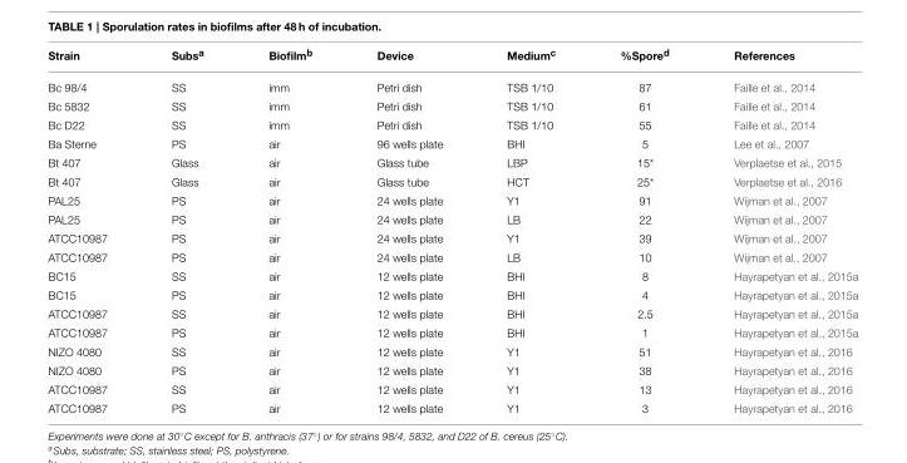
<table><thead><tr><td>Strain</td><td>Subs<sup>a</sup></td><td>Biofilm<sup>b</sup></td><td>Device</td><td>Medium<sup>c</sup></td><td>%Spore<sup>d</sup></td><td>References</td></tr></thead><tbody><tr><td>Bc 98/4</td><td>SS</td><td>imm</td><td>Petri dish</td><td>TSB 1/10</td><td>87</td><td>Faille et al., 2014</td></tr><tr><td>Bc 5832</td><td>SS</td><td>imm</td><td>Petri dish</td><td>TSB 1/10</td><td>61</td><td>Faille et al., 2014</td></tr><tr><td>Bc D22</td><td>SS</td><td>imm</td><td>Petri dish</td><td>TSB 1/10</td><td>55</td><td>Faille et al., 2014</td></tr><tr><td>Ba Sterne</td><td>PS</td><td>air</td><td>96 wells plate</td><td>BHI</td><td>5</td><td>Lee et al., 2007</td></tr><tr><td>Bt 407</td><td>Glass</td><td>air</td><td>Glass tube</td><td>LBP</td><td>15*</td><td>Verplaetse et al., 2015</td></tr><tr><td>Bt 407</td><td>Glass</td><td>air</td><td>Glass tube</td><td>HCT</td><td>25*</td><td>Verplaetse et al., 2016</td></tr><tr><td>PAL25</td><td>PS</td><td>air</td><td>24 wells plate</td><td>Y1</td><td>91</td><td>Wijman et al., 2007</td></tr><tr><td>PAL25</td><td>PS</td><td>air</td><td>24 wells plate</td><td>LB</td><td>22</td><td>Wijman et al., 2007</td></tr><tr><td>ATCC10987</td><td>PS</td><td>air</td><td>24 wells plate</td><td>Y1</td><td>39</td><td>Wijman et al., 2007</td></tr><tr><td>ATCC10987</td><td>PS</td><td>air</td><td>24 wells plate</td><td>LB</td><td>10</td><td>Wijman et al., 2007</td></tr><tr><td>BC15</td><td>SS</td><td>air</td><td>12 wells plate</td><td>BHI</td><td>8</td><td>Hayrapetyan et al., 2015a</td></tr><tr><td>BC15</td><td>PS</td><td>air</td><td>12 wells plate</td><td>BHI</td><td>4</td><td>Hayrapetyan et al., 2015a</td></tr><tr><td>ATCC10987</td><td>SS</td><td>air</td><td>12 wells plate</td><td>BHI</td><td>2.5</td><td>Hayrapetyan et al., 2015a</td></tr><tr><td>ATCC10987</td><td>PS</td><td>air</td><td>12 wells plate</td><td>BHI</td><td>1</td><td>Hayrapetyan et al., 2015a</td></tr><tr><td>NIZO 4080</td><td>SS</td><td>air</td><td>12 wells plate</td><td>Y1</td><td>51</td><td>Hayrapetyan et al., 2016</td></tr><tr><td>NIZO 4080</td><td>PS</td><td>air</td><td>12 wells plate</td><td>Y1</td><td>38</td><td>Hayrapetyan et al., 2016</td></tr><tr><td>ATCC10987</td><td>SS</td><td>air</td><td>12 wells plate</td><td>Y1</td><td>13</td><td>Hayrapetyan et al., 2016</td></tr><tr><td>ATCC10987</td><td>PS</td><td>air</td><td>12 wells plate</td><td>Y1</td><td>3</td><td>Hayrapetyan et al., 2016</td></tr></tbody></table>